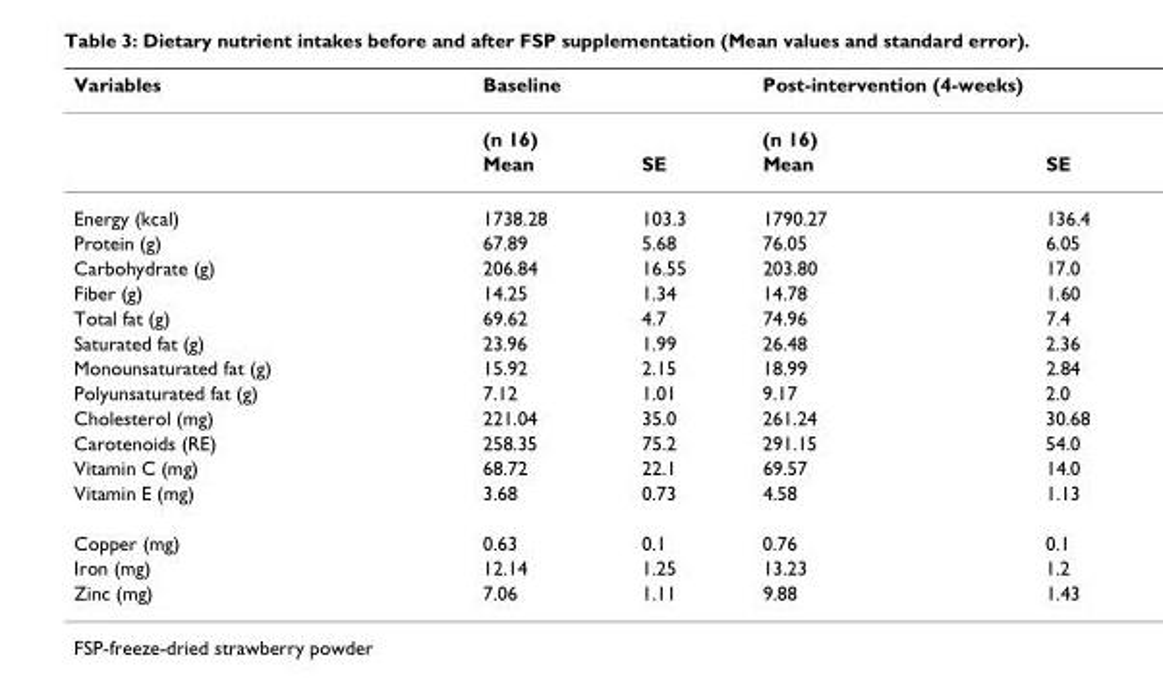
<table><thead><tr><td rowspan="2">Variables</td><td colspan="2">Baseline</td><td colspan="2">Post-intervention (4-weeks)</td></tr><tr><td>(n 16)</td><td></td><td>(n 16)</td><td></td></tr></thead><tbody><tr><td></td><td>Mean</td><td>SE</td><td>Mean</td><td>SE</td></tr><tr><td>Energy (kcal)</td><td>1738.28</td><td>103.3</td><td>1790.27</td><td>136.4</td></tr><tr><td>Protein (g)</td><td>67.89</td><td>5.68</td><td>76.05</td><td>6.05</td></tr><tr><td>Carbohydrate (g)</td><td>206.84</td><td>16.55</td><td>203.80</td><td>17.0</td></tr><tr><td>Fiber (g)</td><td>14.25</td><td>1.34</td><td>14.78</td><td>1.60</td></tr><tr><td>Total fat (g)</td><td>69.62</td><td>4.7</td><td>74.96</td><td>7.4</td></tr><tr><td>Saturated fat (g)</td><td>23.96</td><td>1.99</td><td>26.48</td><td>2.36</td></tr><tr><td>Monounsaturated fat (g)</td><td>15.92</td><td>2.15</td><td>18.99</td><td>2.84</td></tr><tr><td>Polyunsaturated fat (g)</td><td>7.12</td><td>1.01</td><td>9.17</td><td>2.0</td></tr><tr><td>Cholesterol (mg)</td><td>221.04</td><td>35.0</td><td>261.24</td><td>30.68</td></tr><tr><td>Carotenoids (RE)</td><td>258.35</td><td>75.2</td><td>291.15</td><td>54.0</td></tr><tr><td>Vitamin C (mg)</td><td>68.72</td><td>22.1</td><td>69.57</td><td>14.0</td></tr><tr><td>Vitamin E (mg)</td><td>3.68</td><td>0.73</td><td>4.58</td><td>1.13</td></tr><tr><td>Copper (mg)</td><td>0.63</td><td>0.1</td><td>0.76</td><td>0.1</td></tr><tr><td>Iron (mg)</td><td>12.14</td><td>1.25</td><td>13.23</td><td>1.2</td></tr><tr><td>Zinc (mg)</td><td>7.06</td><td>1.11</td><td>9.88</td><td>1.43</td></tr></tbody></table>